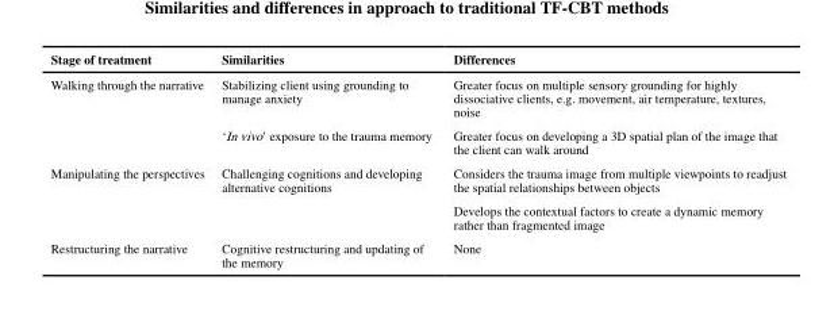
<table><thead><tr><td>Stage of treatment</td><td>Similarities</td><td>Differences</td></tr></thead><tbody><tr><td rowspan="2">Walking through the narrative</td><td>Stabilizing client using grounding to manage anxiety</td><td>Greater focus on multiple sensory grounding for highly dissociative clients, e.g. movement, air temperature, textures, noise</td></tr><tr><td>‘In vivo’ exposure to the trauma memory</td><td>Greater focus on developing a 3D spatial plan of the image that the client can walk around</td></tr><tr><td rowspan="2">Manipulating the perspectives</td><td rowspan="2">Challenging cognitions and developing alternative cognitions</td><td>Considers the trauma image from multiple viewpoints to readjust the spatial relationships between objects</td></tr><tr><td>Develops the contextual factors to create a dynamic memory rather than fragmented image</td></tr><tr><td>Restructuring the narrative</td><td>Cognitive restructuring and updating of the memory</td><td>None</td></tr></tbody></table>